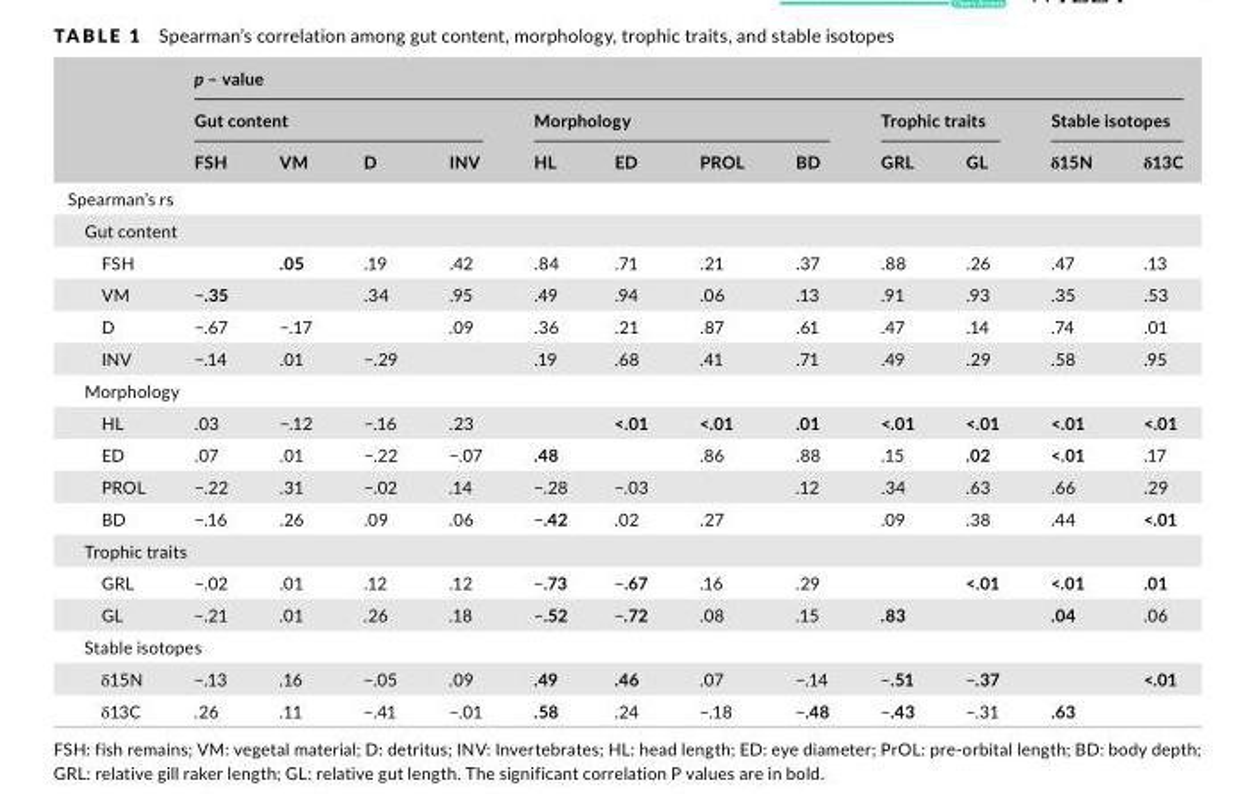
<table><thead><tr><td rowspan="3"></td><td colspan="12">p – value</td></tr><tr><td colspan="4">Gut content</td><td colspan="4">Morphology</td><td colspan="2">Trophic traits</td><td colspan="2">Stable isotopes</td></tr><tr><td>FSH</td><td>VM</td><td>D</td><td>INV</td><td>HL</td><td>ED</td><td>PROL</td><td>BD</td><td>GRL</td><td>GL</td><td>δ15N</td><td>δ13C</td></tr></thead><tbody><tr><td colspan="13">Spearman’s rs</td></tr><tr><td colspan="13">Gut content</td></tr><tr><td>FSH</td><td></td><td>.05</td><td>.19</td><td>.42</td><td>.84</td><td>.71</td><td>.21</td><td>.37</td><td>.88</td><td>.26</td><td>.47</td><td>.13</td></tr><tr><td>VM</td><td>−.35</td><td></td><td>.34</td><td>.95</td><td>.49</td><td>.94</td><td>.06</td><td>.13</td><td>.91</td><td>.93</td><td>.35</td><td>.53</td></tr><tr><td>D</td><td>−.67</td><td>−.17</td><td></td><td>.09</td><td>.36</td><td>.21</td><td>.87</td><td>.61</td><td>.47</td><td>.14</td><td>.74</td><td>.01</td></tr><tr><td>INV</td><td>−.14</td><td>.01</td><td>−.29</td><td></td><td>.19</td><td>.68</td><td>.41</td><td>.71</td><td>.49</td><td>.29</td><td>.58</td><td>.95</td></tr><tr><td colspan="13">Morphology</td></tr><tr><td>HL</td><td>.03</td><td>−.12</td><td>−.16</td><td>.23</td><td></td><td>&lt;.01</td><td>&lt;.01</td><td>.01</td><td>&lt;.01</td><td>&lt;.01</td><td>&lt;.01</td><td>&lt;.01</td></tr><tr><td>ED</td><td>.07</td><td>.01</td><td>−.22</td><td>−.07</td><td>.48</td><td></td><td>.86</td><td>.88</td><td>.15</td><td>.02</td><td>&lt;.01</td><td>.17</td></tr><tr><td>PROL</td><td>−.22</td><td>.31</td><td>−.02</td><td>.14</td><td>−.28</td><td>−.03</td><td></td><td>.12</td><td>.34</td><td>.63</td><td>.66</td><td>.29</td></tr><tr><td>BD</td><td>−.16</td><td>.26</td><td>.09</td><td>.06</td><td>−.42</td><td>.02</td><td>.27</td><td></td><td>.09</td><td>.38</td><td>.44</td><td>&lt;.01</td></tr><tr><td colspan="13">Trophic traits</td></tr><tr><td>GRL</td><td>−.02</td><td>.01</td><td>.12</td><td>.12</td><td>−.73</td><td>−.67</td><td>.16</td><td>.29</td><td></td><td>&lt;.01</td><td>&lt;.01</td><td>.01</td></tr><tr><td>GL</td><td>−.21</td><td>.01</td><td>.26</td><td>.18</td><td>−.52</td><td>−.72</td><td>.08</td><td>.15</td><td>.83</td><td></td><td>.04</td><td>.06</td></tr><tr><td colspan="13">Stable isotopes</td></tr><tr><td>δ15N</td><td>−.13</td><td>.16</td><td>−.05</td><td>.09</td><td>.49</td><td>.46</td><td>.07</td><td>−.14</td><td>−.51</td><td>−.37</td><td></td><td>&lt;.01</td></tr><tr><td>δ13C</td><td>.26</td><td>.11</td><td>−.41</td><td>−.01</td><td>.58</td><td>.24</td><td>−.18</td><td>−.48</td><td>−.43</td><td>−.31</td><td>.63</td><td></td></tr></tbody></table>